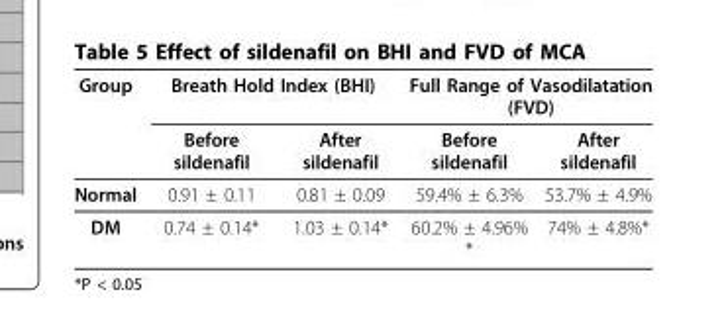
<table><thead><tr><td rowspan="2">Group</td><td colspan="2">Breath Hold Index (BHI)</td><td colspan="2">Full Range of Vasodilatation (FVD)</td></tr><tr><td>Before sildenafil</td><td>After sildenafil</td><td>Before sildenafil</td><td>After sildenafil</td></tr></thead><tbody><tr><td>Normal</td><td>0.91 ± 0.11</td><td>0.81 ± 0.09</td><td>59.4% ± 6.3%</td><td>53.7% ± 4.9%</td></tr><tr><td>DM</td><td>0.74 ± 0.14*</td><td>1.03 ± 0.14*</td><td>60.2% ± 4.96% *</td><td>74% ± 4.8%*</td></tr></tbody></table>